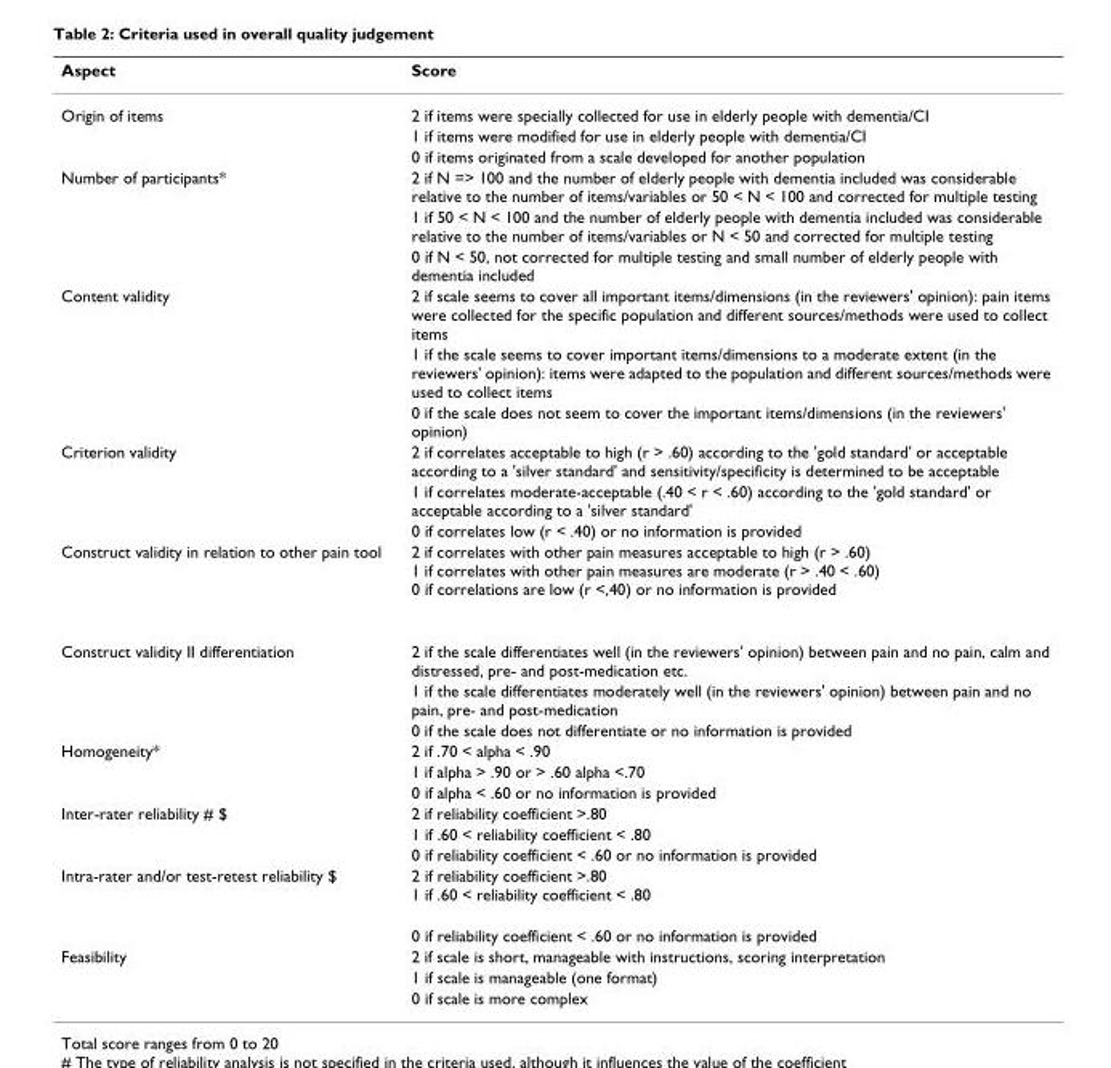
<table><thead><tr><td>Aspect</td><td>Score</td></tr></thead><tbody><tr><td rowspan="3">Origin of items</td><td>2 if items were specially collected for use in elderly people with dementia/CI</td></tr><tr><td>1 if items were modified for use in elderly people with dementia/CI</td></tr><tr><td>0 if items originated from a scale developed for another population</td></tr><tr><td rowspan="3">Number of participants*</td><td>2 if N =&gt; 100 and the number of elderly people with dementia included was considerable relative to the number of items/variables or 50 &lt; N &lt; 100 and corrected for multiple testing</td></tr><tr><td>1 if 50 &lt; N &lt; 100 and the number of elderly people with dementia included was considerable relative to the number of items/variables or N &lt; 50 and corrected for multiple testing</td></tr><tr><td>0 if N &lt; 50, not corrected for multiple testing and small number of elderly people with dementia included</td></tr><tr><td rowspan="3">Content validity</td><td>2 if scale seems to cover all important items/dimensions (in the reviewers&#x27; opinion): pain items were collected for the specific population and different sources/methods were used to collect items</td></tr><tr><td>1 if the scale seems to cover important items/dimensions to a moderate extent (in the reviewers&#x27; opinion): items were adapted to the population and different sources/methods were used to collect items</td></tr><tr><td>0 if the scale does not seem to cover the important items/dimensions (in the reviewers&#x27; opinion)</td></tr><tr><td rowspan="3">Criterion validity</td><td>2 if correlates acceptable to high (r &gt; .60) according to the &#x27;gold standard&#x27; or acceptable according to a &#x27;silver standard&#x27; and sensitivity/specificity is determined to be acceptable</td></tr><tr><td>1 if correlates moderate-acceptable (.40 &lt; r &lt; .60) according to the &#x27;gold standard&#x27; or acceptable according to a &#x27;silver standard&#x27;</td></tr><tr><td>0 if correlates low (r &lt; .40) or no information is provided</td></tr><tr><td>Construct validity in relation to other pain tool</td><td>2 if correlates with other pain measures acceptable to high (r &gt; .60) 1 if correlates with other pain measures are moderate (r &gt; .40 &lt; .60) 0 if correlations are low (r &lt;,40) or no information is provided</td></tr><tr><td rowspan="3">Construct validity II differentiation</td><td>2 if the scale differentiates well (in the reviewers&#x27; opinion) between pain and no pain, calm and distressed, pre- and post-medication etc.</td></tr><tr><td>1 if the scale differentiates moderately well (in the reviewers&#x27; opinion) between pain and no pain, pre- and post-medication</td></tr><tr><td>0 if the scale does not differentiate or no information is provided</td></tr><tr><td rowspan="3">Homogeneity*</td><td>2 if .70 &lt; alpha &lt; .90</td></tr><tr><td>1 if alpha &gt; .90 or &gt; .60 alpha &lt;.70</td></tr><tr><td>0 if alpha &lt; .60 or no information is provided</td></tr><tr><td rowspan="3">Inter-rater reliability # $</td><td>2 if reliability coefficient &gt;.80</td></tr><tr><td>1 if .60 &lt; reliability coefficient &lt; .80</td></tr><tr><td>0 if reliability coefficient &lt; .60 or no information is provided</td></tr><tr><td rowspan="2">Intra-rater and/or test-retest reliability $</td><td>2 if reliability coefficient &gt;.80 1 if .60 &lt; reliability coefficient &lt; .80</td></tr><tr><td>0 if reliability coefficient &lt; .60 or no information is provided</td></tr><tr><td rowspan="3">Feasibility</td><td>2 if scale is short, manageable with instructions, scoring interpretation</td></tr><tr><td>1 if scale is manageable (one format)</td></tr><tr><td>0 if scale is more complex</td></tr></tbody></table>